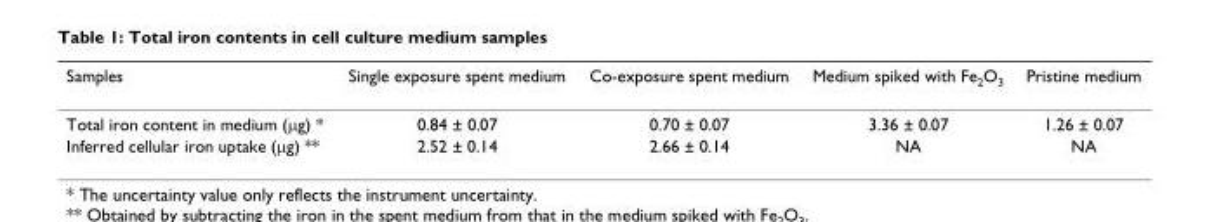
<table><thead><tr><td>Samples</td><td>Single exposure spent medium</td><td>Co-exposure spent medium</td><td>Medium spiked with Fe<sub>2</sub>O<sub>3</sub></td><td>Pristine medium</td></tr></thead><tbody><tr><td>Total iron content in medium (μg) *</td><td>0.84 ± 0.07</td><td>0.70 ± 0.07</td><td>3.36 ± 0.07</td><td>1.26 ± 0.07</td></tr><tr><td>Inferred cellular iron uptake (μg) **</td><td>2.52 ± 0.14</td><td>2.66 ± 0.14</td><td>NA</td><td>NA</td></tr></tbody></table>